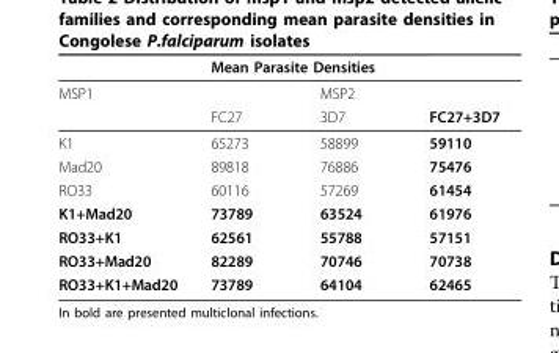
<table><thead><tr><td rowspan="2">MSP1</td><td colspan="2">Mean Parasite Densities</td><td rowspan="2"></td></tr><tr><td></td><td>MSP2</td></tr></thead><tbody><tr><td></td><td>FC27</td><td>3D7</td><td>FC27+3D7</td></tr><tr><td>K1</td><td>65273</td><td>58899</td><td>59110</td></tr><tr><td>Mad20</td><td>89818</td><td>76886</td><td>75476</td></tr><tr><td>RO33</td><td>60116</td><td>57269</td><td>61454</td></tr><tr><td>K1+Mad20</td><td>73789</td><td>63524</td><td>61976</td></tr><tr><td>RO33+K1</td><td>62561</td><td>55788</td><td>57151</td></tr><tr><td>RO33+Mad20</td><td>82289</td><td>70746</td><td>70738</td></tr><tr><td>RO33+K1+Mad20</td><td>73789</td><td>64104</td><td>62465</td></tr></tbody></table>